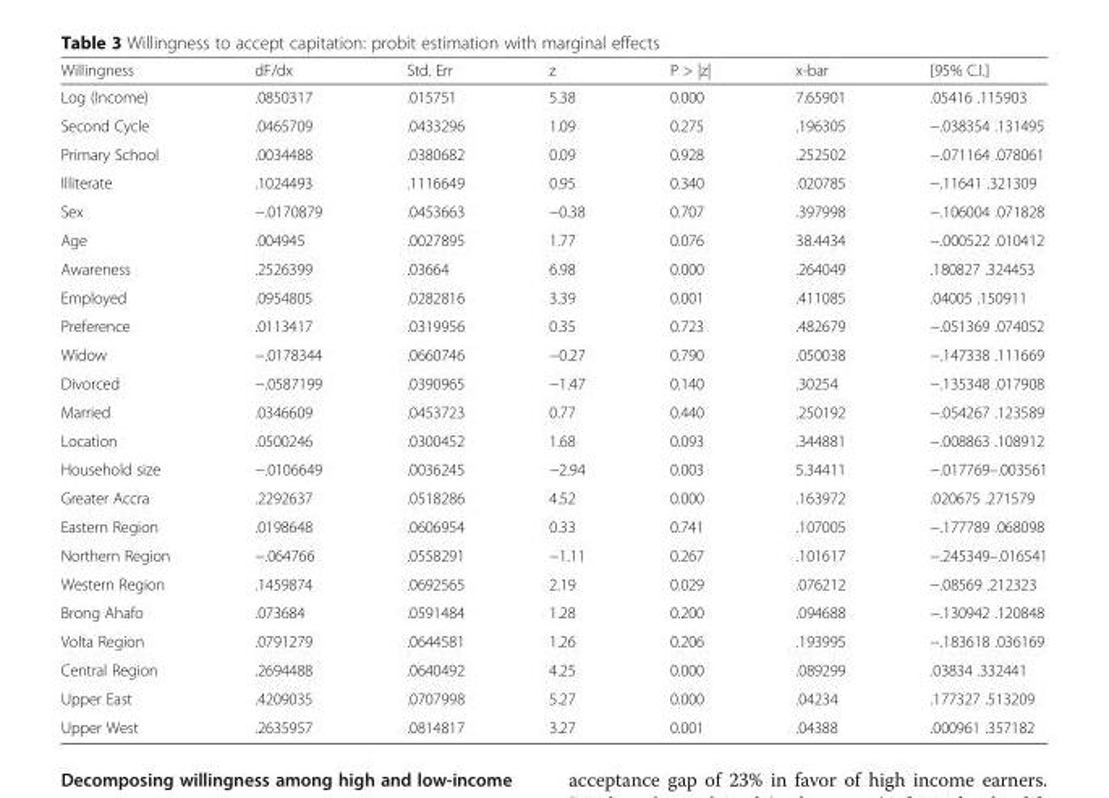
<table><thead><tr><td>Willingness</td><td>dF/dx</td><td>Std. Err</td><td>z</td><td>P &gt; |z|</td><td>x-bar</td><td>[95% C.I.]</td></tr></thead><tbody><tr><td>Log (Income)</td><td>.0850317</td><td>.015751</td><td>5.38</td><td>0.000</td><td>7.65901</td><td>.05416 .115903</td></tr><tr><td>Second Cycle</td><td>.0465709</td><td>.0433296</td><td>1.09</td><td>0.275</td><td>.196305</td><td>−.038354 .131495</td></tr><tr><td>Primary School</td><td>.0034488</td><td>.0380682</td><td>0.09</td><td>0.928</td><td>.252502</td><td>−.071164 .078061</td></tr><tr><td>Illiterate</td><td>.1024493</td><td>.1116649</td><td>0.95</td><td>0.340</td><td>.020785</td><td>−.11641 .321309</td></tr><tr><td>Sex</td><td>−.0170879</td><td>.0453663</td><td>−0.38</td><td>0.707</td><td>.397998</td><td>−.106004 .071828</td></tr><tr><td>Age</td><td>.004945</td><td>.0027895</td><td>1.77</td><td>0.076</td><td>38.4434</td><td>−.000522 .010412</td></tr><tr><td>Awareness</td><td>.2526399</td><td>.03664</td><td>6.98</td><td>0.000</td><td>.264049</td><td>.180827 .324453</td></tr><tr><td>Employed</td><td>.0954805</td><td>.0282816</td><td>3.39</td><td>0.001</td><td>.411085</td><td>.04005 .150911</td></tr><tr><td>Preference</td><td>.0113417</td><td>.0319956</td><td>0.35</td><td>0.723</td><td>.482679</td><td>−.051369 .074052</td></tr><tr><td>Widow</td><td>−.0178344</td><td>.0660746</td><td>−0.27</td><td>0.790</td><td>.050038</td><td>−.147338 .111669</td></tr><tr><td>Divorced</td><td>−.0587199</td><td>.0390965</td><td>−1.47</td><td>0.140</td><td>.30254</td><td>−.135348 .017908</td></tr><tr><td>Married</td><td>.0346609</td><td>.0453723</td><td>0.77</td><td>0.440</td><td>.250192</td><td>−.054267 .123589</td></tr><tr><td>Location</td><td>.0500246</td><td>.0300452</td><td>1.68</td><td>0.093</td><td>.344881</td><td>−.008863 .108912</td></tr><tr><td>Household size</td><td>−.0106649</td><td>.0036245</td><td>−2.94</td><td>0.003</td><td>5.34411</td><td>−.017769–.003561</td></tr><tr><td>Greater Accra</td><td>.2292637</td><td>.0518286</td><td>4.52</td><td>0.000</td><td>.163972</td><td>.020675 .271579</td></tr><tr><td>Eastern Region</td><td>.0198648</td><td>.0606954</td><td>0.33</td><td>0.741</td><td>.107005</td><td>−.177789 .068098</td></tr><tr><td>Northern Region</td><td>−.064766</td><td>.0558291</td><td>−1.11</td><td>0.267</td><td>.101617</td><td>−.245349–.016541</td></tr><tr><td>Western Region</td><td>.1459874</td><td>.0692565</td><td>2.19</td><td>0.029</td><td>.076212</td><td>−.08569 .212323</td></tr><tr><td>Brong Ahafo</td><td>.073684</td><td>.0591484</td><td>1.28</td><td>0.200</td><td>.094688</td><td>−.130942 .120848</td></tr><tr><td>Volta Region</td><td>.0791279</td><td>.0644581</td><td>1.26</td><td>0.206</td><td>.193995</td><td>−.183618 .036169</td></tr><tr><td>Central Region</td><td>.2694488</td><td>.0640492</td><td>4.25</td><td>0.000</td><td>.089299</td><td>.03834 .332441</td></tr><tr><td>Upper East</td><td>.4209035</td><td>.0707998</td><td>5.27</td><td>0.000</td><td>.04234</td><td>.177327 .513209</td></tr><tr><td>Upper West</td><td>.2635957</td><td>.0814817</td><td>3.27</td><td>0.001</td><td>.04388</td><td>.000961 .357182</td></tr></tbody></table>